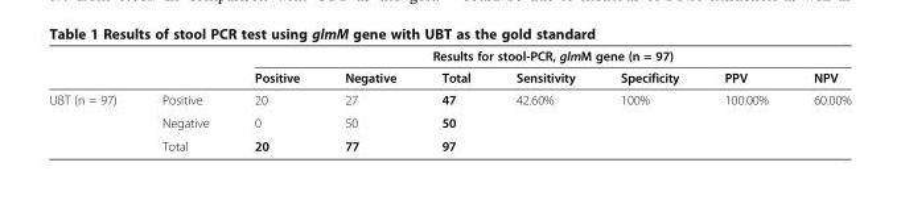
<table><thead><tr><td rowspan="2"></td><td rowspan="2"></td><td colspan="7">Results for stool-PCR, glmM gene (n = 97)</td></tr><tr><td>Positive</td><td>Negative</td><td>Total</td><td>Sensitivity</td><td>Specificity</td><td>PPV</td><td>NPV</td></tr></thead><tbody><tr><td rowspan="3">UBT (n = 97)</td><td>Positive</td><td>20</td><td>27</td><td>47</td><td rowspan="2">42.60%</td><td rowspan="2">100%</td><td rowspan="2">100.00%</td><td rowspan="2">60.00%</td></tr><tr><td>Negative</td><td>0</td><td>50</td><td>50</td></tr><tr><td>Total</td><td>20</td><td>77</td><td>97</td><td></td><td></td><td></td><td></td></tr></tbody></table>